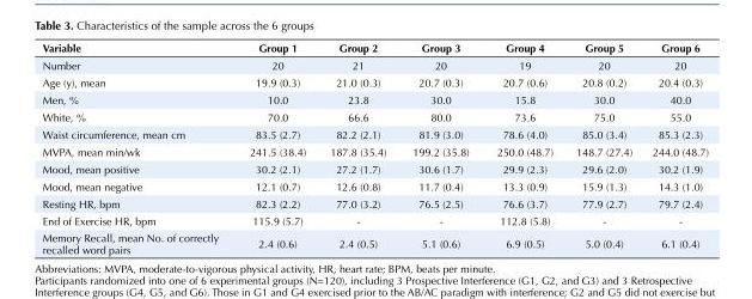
<table><tbody><tr><td>Variable</td><td>Group 1</td><td>Group 2</td><td>Group 3</td><td>Group 4</td><td>Group 5</td><td>Group 6</td></tr><tr><td>Number</td><td>20</td><td>21</td><td>20</td><td>19</td><td>20</td><td>20</td></tr><tr><td>Age (y), mean</td><td>19.9 (0.3)</td><td>21.0 (0.3)</td><td>20.7 (0.3)</td><td>20.7 (0.6)</td><td>20.8 (0.2)</td><td>20.4 (0.3)</td></tr><tr><td>Men, %</td><td>10.0</td><td>23.8</td><td>30.0</td><td>15.8</td><td>30.0</td><td>40.0</td></tr><tr><td>White, %</td><td>70.0</td><td>66.6</td><td>80.0</td><td>73.6</td><td>75.0</td><td>55.0</td></tr><tr><td>Waist circumference, mean cm</td><td>83.5 (2.7)</td><td>82.2 (2.1)</td><td>81.9 (3.0)</td><td>78.6 (4.0)</td><td>85.0 (3.4)</td><td>85.3 (2.3)</td></tr><tr><td>MVPA, mean min/wk</td><td>241.5 (38.4)</td><td>187.8 (35.4)</td><td>199.2 (35.8)</td><td>250.0 (48.7)</td><td>148.7 (27.4)</td><td>244.0 (48.7)</td></tr><tr><td>Mood, mean positive</td><td>30.2 (2.1)</td><td>27.2 (1.7)</td><td>30.6 (1.7)</td><td>29.9 (2.3)</td><td>29.6 (2.0)</td><td>30.2 (1.9)</td></tr><tr><td>Mood, mean negative</td><td>12.1 (0.7)</td><td>12.6 (0.8)</td><td>11.7 (0.4)</td><td>13.3 (0.9)</td><td>15.9 (1.3)</td><td>14.3 (1.0)</td></tr><tr><td>Resting HR, bpm</td><td>82.3 (2.2)</td><td>77.0 (3.2)</td><td>76.5 (2.5)</td><td>76.6 (3.7)</td><td>77.9 (2.7)</td><td>79.7 (2.4)</td></tr><tr><td>End of Exercise HR, bpm</td><td>115.9 (5.7)</td><td>-</td><td>-</td><td>112.8 (5.8)</td><td>-</td><td>-</td></tr><tr><td>Memory Recall, mean No. of correctly recalled word pairs</td><td>2.4 (0.6)</td><td>2.4 (0.5)</td><td>5.1 (0.6)</td><td>6.9 (0.5)</td><td>5.0 (0.4)</td><td>6.1 (0.4)</td></tr></tbody></table>